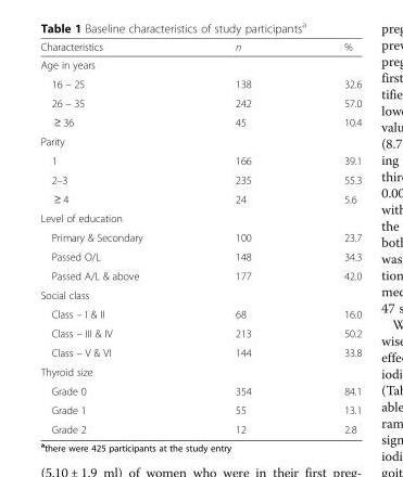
<table><thead><tr><td>Characteristics</td><td>n</td><td>%</td></tr></thead><tbody><tr><td colspan="3">Age in years</td></tr><tr><td>16 – 25</td><td>138</td><td>32.6</td></tr><tr><td>26 – 35</td><td>242</td><td>57.0</td></tr><tr><td>≥ 36</td><td>45</td><td>10.4</td></tr><tr><td colspan="3">Parity</td></tr><tr><td>1</td><td>166</td><td>39.1</td></tr><tr><td>2–3</td><td>235</td><td>55.3</td></tr><tr><td>≥ 4</td><td>24</td><td>5.6</td></tr><tr><td colspan="3">Level of education</td></tr><tr><td>Primary &amp; Secondary</td><td>100</td><td>23.7</td></tr><tr><td>Passed O/L</td><td>148</td><td>34.3</td></tr><tr><td>Passed A/L &amp; above</td><td>177</td><td>42.0</td></tr><tr><td colspan="3">Social class</td></tr><tr><td>Class – I &amp; II</td><td>68</td><td>16.0</td></tr><tr><td>Class – III &amp; IV</td><td>213</td><td>50.2</td></tr><tr><td>Class – V &amp; VI</td><td>144</td><td>33.8</td></tr><tr><td colspan="3">Thyroid size</td></tr><tr><td>Grade 0</td><td>354</td><td>84.1</td></tr><tr><td>Grade 1</td><td>55</td><td>13.1</td></tr><tr><td>Grade 2</td><td>12</td><td>2.8</td></tr></tbody></table>